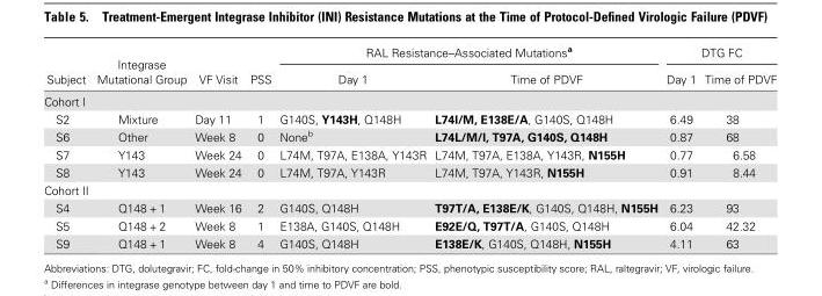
<table><thead><tr><td rowspan="2">Subject</td><td rowspan="2">Integrase Mutational Group</td><td rowspan="2">VF Visit</td><td rowspan="2">PSS</td><td colspan="2">RAL Resistance–Associated Mutations<sup>a</sup></td><td colspan="2">DTG FC</td></tr><tr><td>Day 1</td><td>Time of PDVF</td><td>Day 1</td><td>Time of PDVF</td></tr></thead><tbody><tr><td colspan="8">Cohort I</td></tr><tr><td>S2</td><td>Mixture</td><td>Day 11</td><td>1</td><td>G140S, Y143H, Q148H</td><td>L74I/M, E138E/A, G140S, Q148H</td><td>6.49</td><td>38</td></tr><tr><td>S6</td><td>Other</td><td>Week 8</td><td>0</td><td>None<sup>b</sup></td><td>L74L/M/I, T97A, G140S, Q148H</td><td>0.87</td><td>68</td></tr><tr><td>S7</td><td>Y143</td><td>Week 24</td><td>0</td><td>L74M, T97A, E138A, Y143R</td><td>L74M, T97A, E138A, Y143R, N155H</td><td>0.77</td><td>6.58</td></tr><tr><td>S8</td><td>Y143</td><td>Week 24</td><td>0</td><td>L74M, T97A, Y143R</td><td>L74M, T97A, Y143R, N155H</td><td>0.91</td><td>8.44</td></tr><tr><td colspan="8">Cohort II</td></tr><tr><td>S4</td><td>Q148 + 1</td><td>Week 16</td><td>2</td><td>G140S, Q148H</td><td>T97T/A, E138E/K, G140S, Q148H, N155H</td><td>6.23</td><td>93</td></tr><tr><td>S5</td><td>Q148 + 2</td><td>Week 8</td><td>1</td><td>E138A, G140S, Q148H</td><td>E92E/Q, T97T/A, G140S, Q148H</td><td>6.04</td><td>42.32</td></tr><tr><td>S9</td><td>Q148 + 1</td><td>Week 8</td><td>4</td><td>G140S, Q148H</td><td>E138E/K, G140S, Q148H, N155H</td><td>4.11</td><td>63</td></tr></tbody></table>